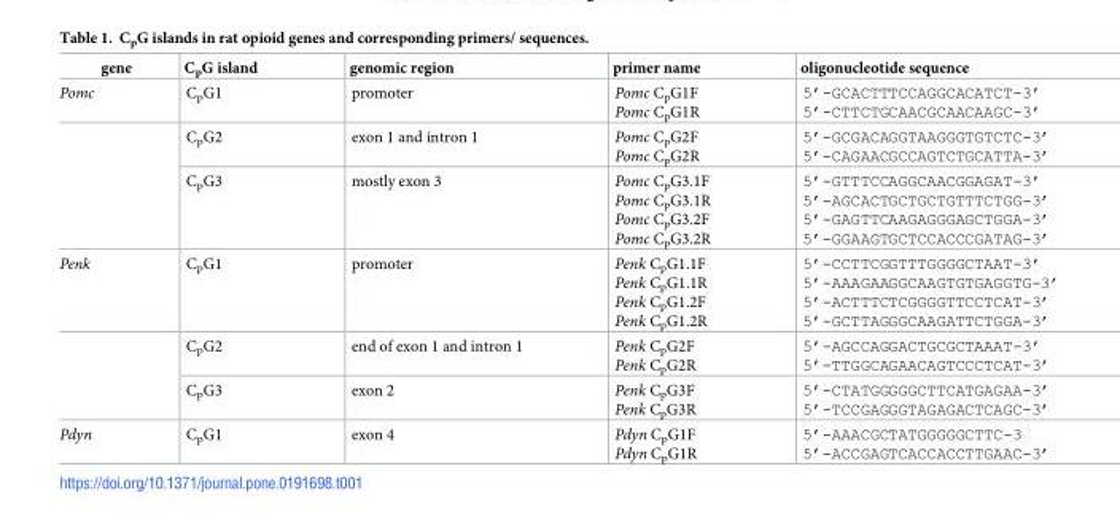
<table><thead><tr><td>gene</td><td>C<sub>p</sub>G island</td><td>genomic region</td><td>primer name</td><td>oligonucleotide sequence</td></tr></thead><tbody><tr><td rowspan="3">Pomc</td><td>C<sub>p</sub>G1</td><td>promoter</td><td>Pomc C<sub>p</sub>G1F Pomc C<sub>p</sub>G1R</td><td>5’-GCACTTTCCAGGCACATCT-3’ 5’-CTTCTGCAACGCAACAAGC-3’</td></tr><tr><td>C<sub>p</sub>G2</td><td>exon 1 and intron 1</td><td>Pomc C<sub>p</sub>G2F Pomc C<sub>p</sub>G2R</td><td>5’-GCGACAGGTAAGGGTGTCTC-3’ 5’-CAGAACGCCAGTCTGCATTA-3’</td></tr><tr><td>C<sub>p</sub>G3</td><td>mostly exon 3</td><td>Pomc C<sub>p</sub>G3.1F Pomc C<sub>p</sub>G3.1R Pomc C<sub>p</sub>G3.2F Pomc C<sub>p</sub>G3.2R</td><td>5’-GTTTCCAGGCAACGGAGAT-3’ 5’-AGCACTGCTGCTGTTTCTGG-3’ 5’-GAGTTCAAGAGGGAGCTGGA-3’ 5’-GGAAGTGCTCCACCCGATAG-3’</td></tr><tr><td rowspan="3">Penk</td><td>C<sub>p</sub>G1</td><td>promoter</td><td>Penk C<sub>p</sub>G1.1F Penk C<sub>p</sub>G1.1R Penk C<sub>p</sub>G1.2F Penk C<sub>p</sub>G1.2R</td><td>5’-CCTTCGGTTTGGGGCTAAT-3’ 5’-AAAGAAGGCAAGTGTGAGGTG-3’ 5’-ACTTTCTCGGGGTTCCTCAT-3’ 5’-GCTTAGGGCAAGATTCTGGA-3’</td></tr><tr><td>C<sub>p</sub>G2</td><td>end of exon 1 and intron 1</td><td>Penk C<sub>p</sub>G2F Penk C<sub>p</sub>G2R</td><td>5’-AGCCAGGACTGCGCTAAAT-3’ 5’-TTGGCAGAACAGTCCCTCAT-3’</td></tr><tr><td>C<sub>p</sub>G3</td><td>exon 2</td><td>Penk C<sub>p</sub>G3F Penk C<sub>p</sub>G3R</td><td>5’-CTATGGGGGCTTCATGAGAA-3’ 5’-TCCGAGGGTAGAGACTCAGC-3’</td></tr><tr><td>Pdyn</td><td>C<sub>p</sub>G1</td><td>exon 4</td><td>Pdyn C<sub>p</sub>G1F Pdyn C<sub>p</sub>G1R</td><td>5’-AAACGCTATGGGGGCTTC-3 5’-ACCGAGTCACCACCTTGAAC-3’</td></tr></tbody></table>